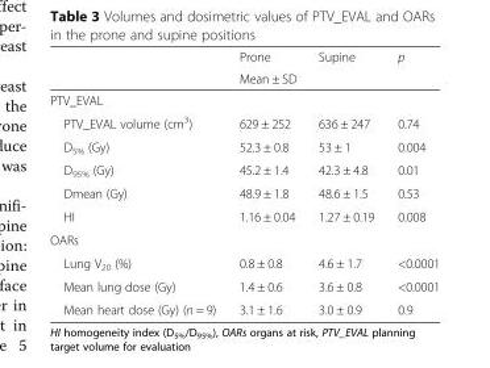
<table><thead><tr><td rowspan="2"></td><td>Prone</td><td>Supine</td><td rowspan="2">p</td></tr><tr><td colspan="2">Mean ± SD</td></tr></thead><tbody><tr><td colspan="4">PTV_EVAL</td></tr><tr><td>PTV_EVAL volume (cm<sup>3</sup>)</td><td>629 ± 252</td><td>636 ± 247</td><td>0.74</td></tr><tr><td>D<sub>5%</sub> (Gy)</td><td>52.3 ± 0.8</td><td>53 ± 1</td><td>0.004</td></tr><tr><td>D<sub>95%</sub> (Gy)</td><td>45.2 ± 1.4</td><td>42.3 ± 4.8</td><td>0.01</td></tr><tr><td>Dmean (Gy)</td><td>48.9 ± 1.8</td><td>48.6 ± 1.5</td><td>0.53</td></tr><tr><td>HI</td><td>1.16 ± 0.04</td><td>1.27 ± 0.19</td><td>0.008</td></tr><tr><td colspan="4">OARs</td></tr><tr><td>Lung V<sub>20</sub> (%)</td><td>0.8 ± 0.8</td><td>4.6 ± 1.7</td><td>&lt;0.0001</td></tr><tr><td>Mean lung dose (Gy)</td><td>1.4 ± 0.6</td><td>3.6 ± 0.8</td><td>&lt;0.0001</td></tr><tr><td>Mean heart dose (Gy) (n = 9)</td><td>3.1 ± 1.6</td><td>3.0 ± 0.9</td><td>0.9</td></tr></tbody></table>